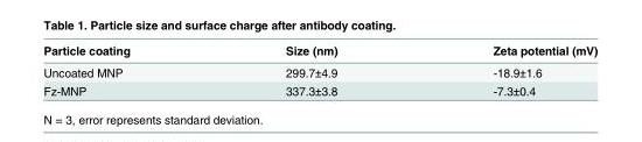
<table><thead><tr><td>Particle coating</td><td>Size (nm)</td><td>Zeta potential (mV)</td></tr></thead><tbody><tr><td>Uncoated MNP</td><td>299.7±4.9</td><td>-18.9±1.6</td></tr><tr><td>Fz-MNP</td><td>337.3±3.8</td><td>-7.3±0.4</td></tr></tbody></table>